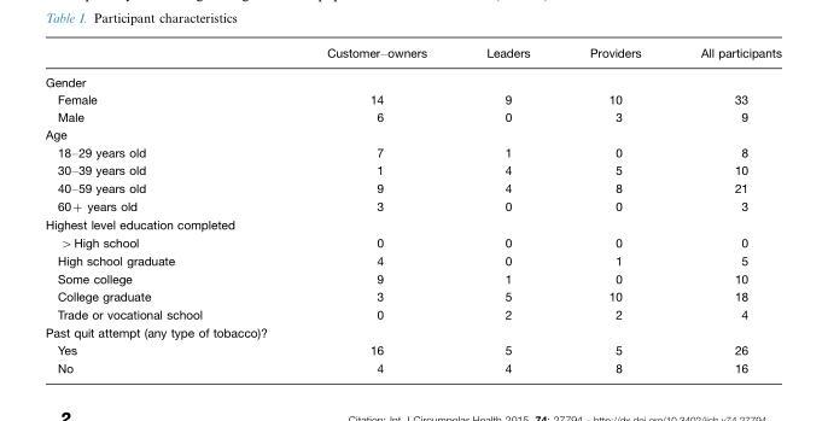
<table><thead><tr><td></td><td>Customer–owners</td><td>Leaders</td><td>Providers</td><td>All participants</td></tr></thead><tbody><tr><td colspan="5">Gender</td></tr><tr><td>Female</td><td>14</td><td>9</td><td>10</td><td>33</td></tr><tr><td>Male</td><td>6</td><td>0</td><td>3</td><td>9</td></tr><tr><td colspan="5">Age</td></tr><tr><td>18–29 years old</td><td>7</td><td>1</td><td>0</td><td>8</td></tr><tr><td>30–39 years old</td><td>1</td><td>4</td><td>5</td><td>10</td></tr><tr><td>40–59 years old</td><td>9</td><td>4</td><td>8</td><td>21</td></tr><tr><td>60+ years old</td><td>3</td><td>0</td><td>0</td><td>3</td></tr><tr><td colspan="5">Highest level education completed</td></tr><tr><td>&gt;High school</td><td>0</td><td>0</td><td>0</td><td>0</td></tr><tr><td>High school graduate</td><td>4</td><td>0</td><td>1</td><td>5</td></tr><tr><td>Some college</td><td>9</td><td>1</td><td>0</td><td>10</td></tr><tr><td>College graduate</td><td>3</td><td>5</td><td>10</td><td>18</td></tr><tr><td>Trade or vocational school</td><td>0</td><td>2</td><td>2</td><td>4</td></tr><tr><td colspan="5">Past quit attempt (any type of tobacco)?</td></tr><tr><td>Yes</td><td>16</td><td>5</td><td>5</td><td>26</td></tr><tr><td>No</td><td>4</td><td>4</td><td>8</td><td>16</td></tr></tbody></table>